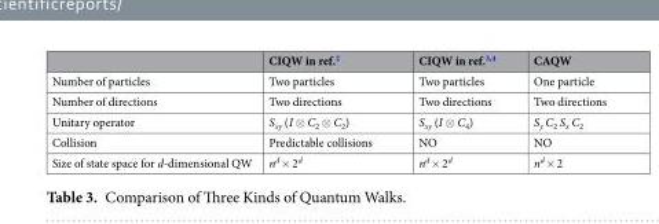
<table><thead><tr><td></td><td>CIQW in ref.<sup>2</sup></td><td>CIQW in ref.<sup>3,4</sup></td><td>CAQW</td></tr></thead><tbody><tr><td>Number of particles</td><td>Two particles</td><td>Two particles</td><td>One particle</td></tr><tr><td>Number of directions</td><td>Two directions</td><td>Two directions</td><td>Two directions</td></tr><tr><td>Unitary operator</td><td>S<sub>xy</sub> (I ⊗ C<sub>2</sub> ⊗ C<sub>2</sub>)</td><td>S<sub>xy</sub> (I ⊗ C<sub>4</sub>)</td><td>S<sub>y</sub> C<sub>2</sub> S<sub>x</sub> C<sub>2</sub></td></tr><tr><td>Collision</td><td>Predictable collisions</td><td>NO</td><td>NO</td></tr><tr><td>Size of state space for d-dimensional QW</td><td>n<sup>d</sup> × 2<sup>d</sup></td><td>n<sup>d</sup> × 2<sup>d</sup></td><td>n<sup>d</sup> × 2</td></tr></tbody></table>